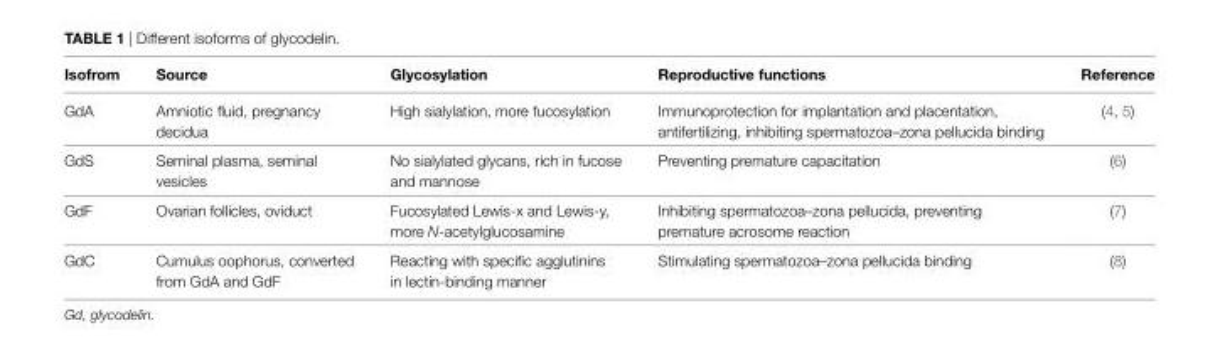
<table><thead><tr><td>isofrom</td><td>Source</td><td>Glycosylation</td><td>Reproductive functions</td><td>Reference</td></tr></thead><tbody><tr><td>GdA</td><td>Amniotic fluid, pregnancy decidua</td><td>High sialylation, more fucosylation</td><td>Immunoprotection for implantation and placentation, antifertilizing, inhibiting spermatozoa–zona pellucida binding</td><td>(4, 5)</td></tr><tr><td>GdS</td><td>Seminal plasma, seminal vesicles</td><td>No sialylated glycans, rich in fucose and mannose</td><td>Preventing premature capacitation</td><td>(6)</td></tr><tr><td>GdF</td><td>Ovarian follicles, oviduct</td><td>Fucosylated Lewis-x and Lewis-y, more N-acetylglucosamine</td><td>Inhibiting spermatozoa–zona pellucida, preventing premature acrosome reaction</td><td>(7)</td></tr><tr><td>GdC</td><td>Cumulus oophorus, converted from GdA and GdF</td><td>Reacting with specific agglutinins in lectin-binding manner</td><td>Stimulating spermatozoa–zona pellucida binding</td><td>(8)</td></tr></tbody></table>